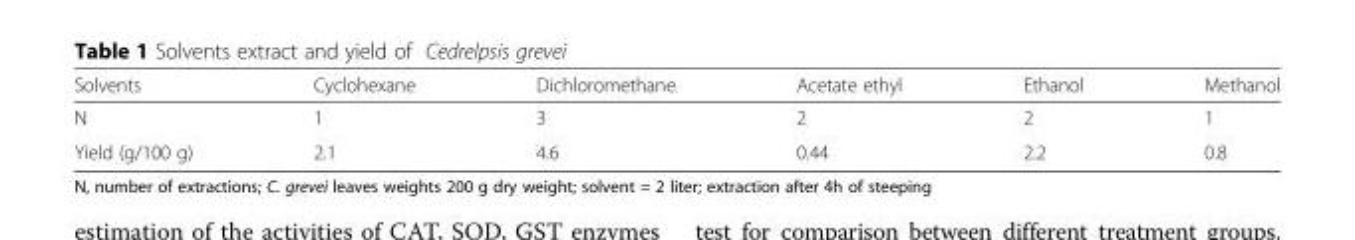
<table><thead><tr><td>Solvents</td><td>Cyclohexane</td><td>Dichloromethane</td><td>Acetate ethyl</td><td>Ethanol</td><td>Methanol</td></tr></thead><tbody><tr><td>N</td><td>1</td><td>3</td><td>2</td><td>2</td><td>1</td></tr><tr><td>Yield (g/100 g)</td><td>2.1</td><td>4.6</td><td>0.44</td><td>2.2</td><td>0.8</td></tr></tbody></table>